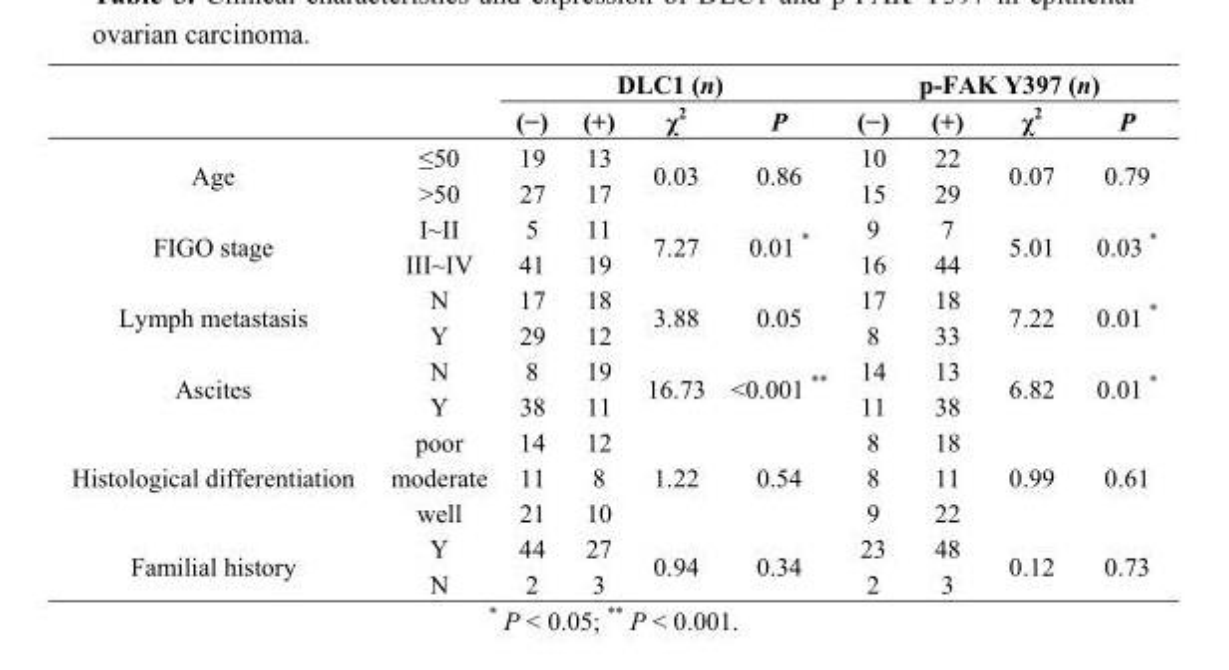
<table><thead><tr><td rowspan="2"></td><td rowspan="2"></td><td colspan="4">DLC1 (n)</td><td colspan="4">p-FAK Y397 (n)</td></tr><tr><td>(−)</td><td>(+)</td><td>χ<sup>2</sup></td><td>P</td><td>(−)</td><td>(+)</td><td>χ<sup>2</sup></td><td>P</td></tr></thead><tbody><tr><td rowspan="2">Age</td><td>≤50</td><td>19</td><td>13</td><td rowspan="2">0.03</td><td rowspan="2">0.86</td><td>10</td><td>22</td><td rowspan="2">0.07</td><td rowspan="2">0.79</td></tr><tr><td>&gt;50</td><td>27</td><td>17</td><td>15</td><td>29</td></tr><tr><td rowspan="2">FIGO stage</td><td>I~II</td><td>5</td><td>11</td><td rowspan="2">7.27</td><td rowspan="2">0.01 *</td><td>9</td><td>7</td><td rowspan="2">5.01</td><td rowspan="2">0.03 *</td></tr><tr><td>III~IV</td><td>41</td><td>19</td><td>16</td><td>44</td></tr><tr><td rowspan="2">Lymph metastasis</td><td>N</td><td>17</td><td>18</td><td rowspan="2">3.88</td><td rowspan="2">0.05</td><td>17</td><td>18</td><td rowspan="2">7.22</td><td rowspan="2">0.01 *</td></tr><tr><td>Y</td><td>29</td><td>12</td><td>8</td><td>33</td></tr><tr><td rowspan="2">Ascites</td><td>N</td><td>8</td><td>19</td><td rowspan="2">16.73</td><td rowspan="2">&lt;0.001 **</td><td>14</td><td>13</td><td rowspan="2">6.82</td><td rowspan="2">0.01 *</td></tr><tr><td>Y</td><td>38</td><td>11</td><td>11</td><td>38</td></tr><tr><td rowspan="3">Histological differentiation</td><td>poor</td><td>14</td><td>12</td><td rowspan="3">1.22</td><td rowspan="3">0.54</td><td>8</td><td>18</td><td rowspan="3">0.99</td><td rowspan="3">0.61</td></tr><tr><td>moderate</td><td>11</td><td>8</td><td>8</td><td>11</td></tr><tr><td>well</td><td>21</td><td>10</td><td>9</td><td>22</td></tr><tr><td rowspan="2">Familial history</td><td>Y</td><td>44</td><td>27</td><td rowspan="2">0.94</td><td rowspan="2">0.34</td><td>23</td><td>48</td><td rowspan="2">0.12</td><td rowspan="2">0.73</td></tr><tr><td>N</td><td>2</td><td>3</td><td>2</td><td>3</td></tr></tbody></table>